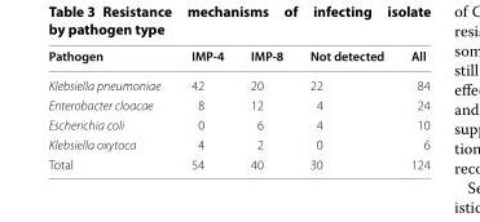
<table><thead><tr><td>Pathogen</td><td>IMP-4</td><td>IMP-8</td><td>Not detected</td><td>All</td></tr></thead><tbody><tr><td>Klebsiella pneumoniae</td><td>42</td><td>20</td><td>22</td><td>84</td></tr><tr><td>Enterobacter cloacae</td><td>8</td><td>12</td><td>4</td><td>24</td></tr><tr><td>Escherichia coli</td><td>0</td><td>6</td><td>4</td><td>10</td></tr><tr><td>Klebsiella oxytoca</td><td>4</td><td>2</td><td>0</td><td>6</td></tr><tr><td>Total</td><td>54</td><td>40</td><td>30</td><td>124</td></tr></tbody></table>